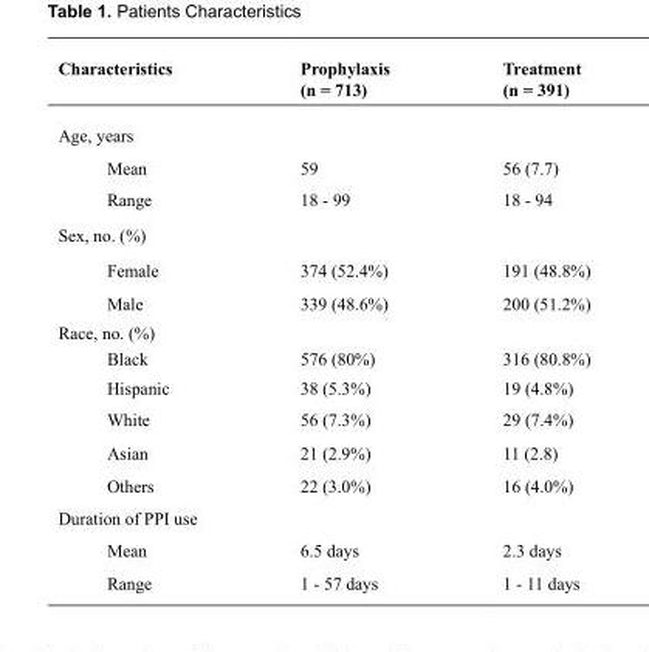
<table><thead><tr><td>Characteristics</td><td>Prophylaxis (n = 713)</td><td>Treatment (n = 391)</td></tr></thead><tbody><tr><td colspan="3">Age, years</td></tr><tr><td>Mean</td><td>59</td><td>56 (7.7)</td></tr><tr><td>Range</td><td>18 - 99</td><td>18 - 94</td></tr><tr><td colspan="3">Sex, no. (%)</td></tr><tr><td>Female</td><td>374 (52.4%)</td><td>191 (48.8%)</td></tr><tr><td>Male</td><td>339 (48.6%)</td><td>200 (51.2%)</td></tr><tr><td colspan="3">Race, no. (%)</td></tr><tr><td>Black</td><td>576 (80%)</td><td>316 (80.8%)</td></tr><tr><td>Hispanic</td><td>38 (5.3%)</td><td>19 (4.8%)</td></tr><tr><td>White</td><td>56 (7.3%)</td><td>29 (7.4%)</td></tr><tr><td>Asian</td><td>21 (2.9%)</td><td>11 (2.8)</td></tr><tr><td>Others</td><td>22 (3.0%)</td><td>16 (4.0%)</td></tr><tr><td colspan="3">Duration of PPI use</td></tr><tr><td>Mean</td><td>6.5 days</td><td>2.3 days</td></tr><tr><td>Range</td><td>1 - 57 days</td><td>1 - 11 days</td></tr></tbody></table>